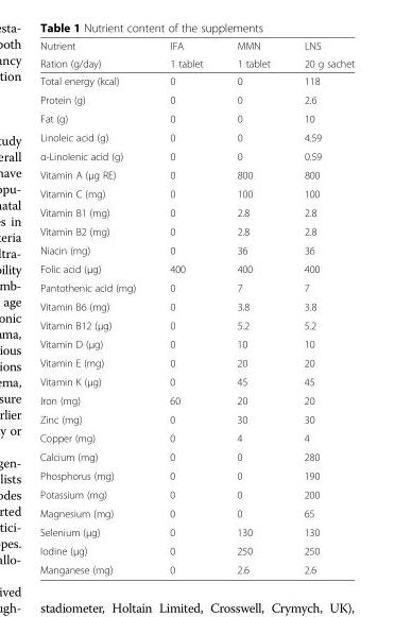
<table><thead><tr><td rowspan="2">Nutrient Ration (g/day)</td><td rowspan="2">IFA 1 tablet</td><td rowspan="2">MMN 1 tablet</td><td rowspan="2">LNS 20 g sachet</td></tr><tr></tr></thead><tbody><tr><td>Total energy (kcal)</td><td>0</td><td>0</td><td>118</td></tr><tr><td>Protein (g)</td><td>0</td><td>0</td><td>2.6</td></tr><tr><td>Fat (g)</td><td>0</td><td>0</td><td>10</td></tr><tr><td>Linoleic acid (g)</td><td>0</td><td>0</td><td>4.59</td></tr><tr><td>α-Linolenic acid (g)</td><td>0</td><td>0</td><td>0.59</td></tr><tr><td>Vitamin A (μg RE)</td><td>0</td><td>800</td><td>800</td></tr><tr><td>Vitamin C (mg)</td><td>0</td><td>100</td><td>100</td></tr><tr><td>Vitamin B1 (mg)</td><td>0</td><td>2.8</td><td>2.8</td></tr><tr><td>Vitamin B2 (mg)</td><td>0</td><td>2.8</td><td>2.8</td></tr><tr><td>Niacin (mg)</td><td>0</td><td>36</td><td>36</td></tr><tr><td>Folic acid (μg)</td><td>400</td><td>400</td><td>400</td></tr><tr><td>Pantothenic acid (mg)</td><td>0</td><td>7</td><td>7</td></tr><tr><td>Vitamin B6 (mg)</td><td>0</td><td>3.8</td><td>3.8</td></tr><tr><td>Vitamin B12 (μg)</td><td>0</td><td>5.2</td><td>5.2</td></tr><tr><td>Vitamin D (μg)</td><td>0</td><td>10</td><td>10</td></tr><tr><td>Vitamin E (mg)</td><td>0</td><td>20</td><td>20</td></tr><tr><td>Vitamin K (μg)</td><td>0</td><td>45</td><td>45</td></tr><tr><td>Iron (mg)</td><td>60</td><td>20</td><td>20</td></tr><tr><td>Zinc (mg)</td><td>0</td><td>30</td><td>30</td></tr><tr><td>Copper (mg)</td><td>0</td><td>4</td><td>4</td></tr><tr><td>Calcium (mg)</td><td>0</td><td>0</td><td>280</td></tr><tr><td>Phosphorus (mg)</td><td>0</td><td>0</td><td>190</td></tr><tr><td>Potassium (mg)</td><td>0</td><td>0</td><td>200</td></tr><tr><td>Magnesium (mg)</td><td>0</td><td>0</td><td>65</td></tr><tr><td>Selenium (μg)</td><td>0</td><td>130</td><td>130</td></tr><tr><td>Iodine (μg)</td><td>0</td><td>250</td><td>250</td></tr><tr><td>Manganese (mg)</td><td>0</td><td>2.6</td><td>2.6</td></tr></tbody></table>